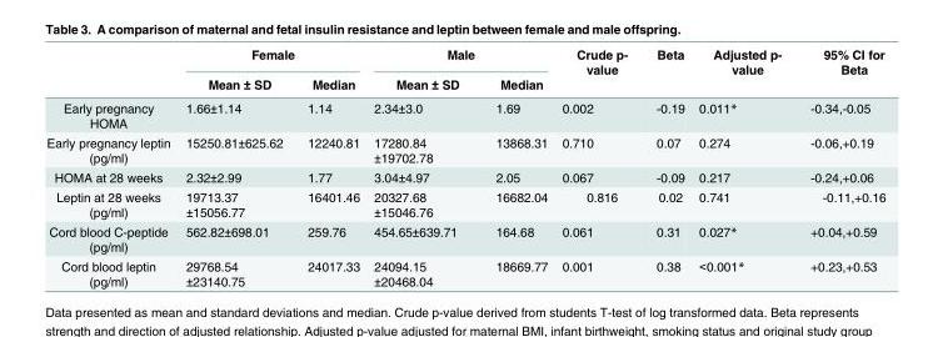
<table><thead><tr><td rowspan="2"></td><td colspan="2">Female</td><td colspan="2">Male</td><td rowspan="2">Crude p- value</td><td rowspan="2">Beta</td><td rowspan="2">Adjusted p- value</td><td rowspan="2">95% CI for Beta</td></tr><tr><td>Mean ± SD</td><td>Median</td><td>Mean ± SD</td><td>Median</td></tr></thead><tbody><tr><td>Early pregnancy HOMA</td><td>1.66±1.14</td><td>1.14</td><td>2.34±3.0</td><td>1.69</td><td>0.002</td><td>-0.19</td><td>0.011*</td><td>-0.34,-0.05</td></tr><tr><td>Early pregnancy leptin (pg/ml)</td><td>15250.81±625.62</td><td>12240.81</td><td>17280.84 ±19702.78</td><td>13868.31</td><td>0.710</td><td>0.07</td><td>0.274</td><td>-0.06,+0.19</td></tr><tr><td>HOMA at 28 weeks</td><td>2.32±2.99</td><td>1.77</td><td>3.04±4.97</td><td>2.05</td><td>0.067</td><td>-0.09</td><td>0.217</td><td>-0.24,+0.06</td></tr><tr><td>Leptin at 28 weeks (pg/ml)</td><td>19713.37 ±15056.77</td><td>16401.46</td><td>20327.68 ±15046.76</td><td>16682.04</td><td>0.816</td><td>0.02</td><td>0.741</td><td>-0.11,+0.16</td></tr><tr><td>Cord blood C-peptide (pg/ml)</td><td>562.82±698.01</td><td>259.76</td><td>454.65±639.71</td><td>164.68</td><td>0.061</td><td>0.31</td><td>0.027*</td><td>+0.04,+0.59</td></tr><tr><td>Cord blood leptin (pg/ml)</td><td>29768.54 ±23140.75</td><td>24017.33</td><td>24094.15 ±20468.04</td><td>18669.77</td><td>0.001</td><td>0.38</td><td>&lt;0.001*</td><td>+0.23,+0.53</td></tr></tbody></table>